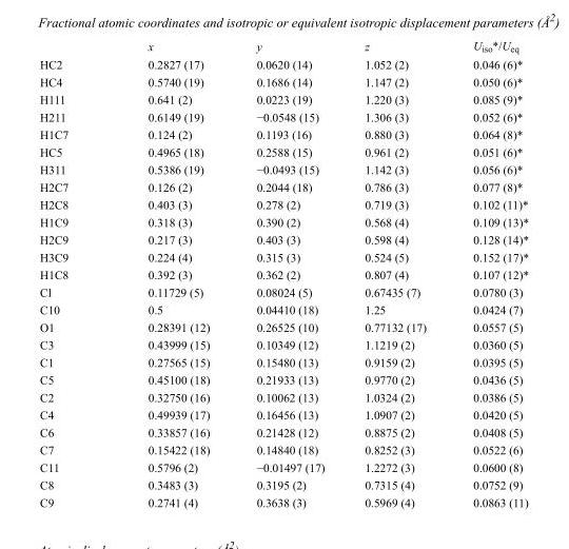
<table><thead><tr><td></td><td>x</td><td>y</td><td>z</td><td>U<sub>iso</sub>*/U<sub>eq</sub></td></tr></thead><tbody><tr><td>HC2</td><td>0.2827 (17)</td><td>0.0620 (14)</td><td>1.052 (2)</td><td>0.046 (6)*</td></tr><tr><td>HC4</td><td>0.5740 (19)</td><td>0.1686 (14)</td><td>1.147 (2)</td><td>0.050 (6)*</td></tr><tr><td>H111</td><td>0.641 (2)</td><td>0.0223 (19)</td><td>1.220 (3)</td><td>0.085 (9)*</td></tr><tr><td>H211</td><td>0.6149 (19)</td><td>−0.0548 (15)</td><td>1.306 (3)</td><td>0.052 (6)*</td></tr><tr><td>H1C7</td><td>0.124 (2)</td><td>0.1193 (16)</td><td>0.880 (3)</td><td>0.064 (8)*</td></tr><tr><td>HC5</td><td>0.4965 (18)</td><td>0.2588 (15)</td><td>0.961 (2)</td><td>0.051 (6)*</td></tr><tr><td>H311</td><td>0.5386 (19)</td><td>−0.0493 (15)</td><td>1.142 (3)</td><td>0.056 (6)*</td></tr><tr><td>H2C7</td><td>0.126 (2)</td><td>0.2044 (18)</td><td>0.786 (3)</td><td>0.077 (8)*</td></tr><tr><td>H2C8</td><td>0.403 (3)</td><td>0.278 (2)</td><td>0.719 (3)</td><td>0.102 (11)*</td></tr><tr><td>H1C9</td><td>0.318 (3)</td><td>0.390 (2)</td><td>0.568 (4)</td><td>0.109 (13)*</td></tr><tr><td>H2C9</td><td>0.217 (3)</td><td>0.403 (3)</td><td>0.598 (4)</td><td>0.128 (14)*</td></tr><tr><td>H3C9</td><td>0.224 (4)</td><td>0.315 (3)</td><td>0.524 (5)</td><td>0.152 (17)*</td></tr><tr><td>H1C8</td><td>0.392 (3)</td><td>0.362 (2)</td><td>0.807 (4)</td><td>0.107 (12)*</td></tr><tr><td>Cl</td><td>0.11729 (5)</td><td>0.08024 (5)</td><td>0.67435 (7)</td><td>0.0780 (3)</td></tr><tr><td>C10</td><td>0.5</td><td>0.04410 (18)</td><td>1.25</td><td>0.0424 (7)</td></tr><tr><td>O1</td><td>0.28391 (12)</td><td>0.26525 (10)</td><td>0.77132 (17)</td><td>0.0557 (5)</td></tr><tr><td>C3</td><td>0.43999 (15)</td><td>0.10349 (12)</td><td>1.1219 (2)</td><td>0.0360 (5)</td></tr><tr><td>C1</td><td>0.27565 (15)</td><td>0.15480 (13)</td><td>0.9159 (2)</td><td>0.0395 (5)</td></tr><tr><td>C5</td><td>0.45100 (18)</td><td>0.21933 (13)</td><td>0.9770 (2)</td><td>0.0436 (5)</td></tr><tr><td>C2</td><td>0.32750 (16)</td><td>0.10062 (13)</td><td>1.0324 (2)</td><td>0.0386 (5)</td></tr><tr><td>C4</td><td>0.49939 (17)</td><td>0.16456 (13)</td><td>1.0907 (2)</td><td>0.0420 (5)</td></tr><tr><td>C6</td><td>0.33857 (16)</td><td>0.21428 (12)</td><td>0.8875 (2)</td><td>0.0408 (5)</td></tr><tr><td>C7</td><td>0.15422 (18)</td><td>0.14840 (18)</td><td>0.8252 (3)</td><td>0.0522 (6)</td></tr><tr><td>C11</td><td>0.5796 (2)</td><td>−0.01497 (17)</td><td>1.2272 (3)</td><td>0.0600 (8)</td></tr><tr><td>C8</td><td>0.3483 (3)</td><td>0.3195 (2)</td><td>0.7315 (4)</td><td>0.0752 (9)</td></tr><tr><td>C9</td><td>0.2741 (4)</td><td>0.3638 (3)</td><td>0.5969 (4)</td><td>0.0863 (11)</td></tr></tbody></table>